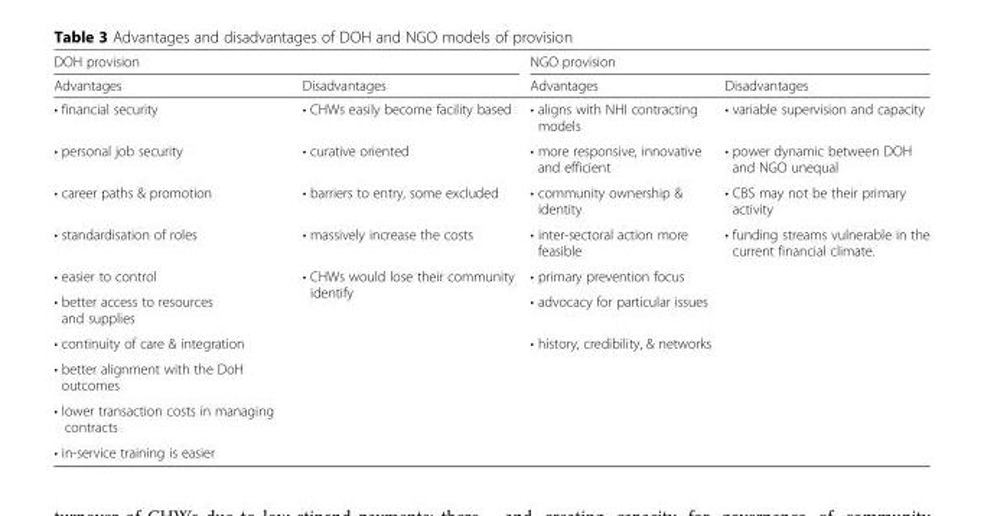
<table><thead><tr><td colspan="2">DOH provision</td><td colspan="2">NGO provision</td></tr><tr><td>Advantages</td><td>Disadvantages</td><td>Advantages</td><td>Disadvantages</td></tr></thead><tbody><tr><td>• financial security</td><td>• CHWs easily become facility based</td><td>• aligns with NHI contracting models</td><td>• variable supervision and capacity</td></tr><tr><td>• personal job security</td><td>• curative oriented</td><td>• more responsive, innovative and efficient</td><td>• power dynamic between DOH and NGO unequal</td></tr><tr><td>• career paths &amp; promotion</td><td>• barriers to entry, some excluded</td><td>• community ownership &amp; identity</td><td>• CBS may not be their primary activity</td></tr><tr><td>• standardisation of roles</td><td>• massively increase the costs</td><td>• inter-sectoral action more feasible</td><td>• funding streams vulnerable in the current financial climate.</td></tr><tr><td>• easier to control</td><td rowspan="5">• CHWs would lose their community identify</td><td>• primary prevention focus</td><td rowspan="5"></td></tr><tr><td>• better access to resources and supplies</td><td>• advocacy for particular issues</td></tr><tr><td>• continuity of care &amp; integration</td><td rowspan="3">• history, credibility, &amp; networks</td></tr><tr><td>• better alignment with the DoH outcomes</td></tr><tr><td>• lower transaction costs in managing contracts</td></tr><tr><td>• in-service training is easier</td><td></td><td></td><td></td></tr></tbody></table>